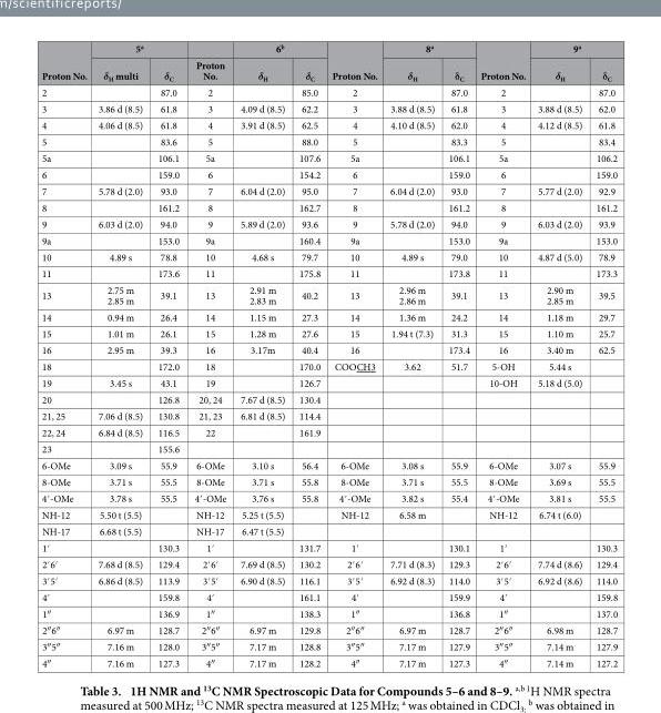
<table><thead><tr><td rowspan="2">Proton No.</td><td colspan="2">5<sup>a</sup></td><td rowspan="2">Proton No.</td><td colspan="2">6<sup>b</sup></td><td rowspan="2">Proton No.</td><td colspan="2">8<sup>a</sup></td><td rowspan="2">Proton No.</td><td colspan="2">9<sup>a</sup></td></tr><tr><td>δ<sub>H</sub> multi</td><td>δ<sub>C</sub></td><td>δ<sub>H</sub></td><td>δ<sub>C</sub></td><td>δ<sub>H</sub></td><td>δ<sub>C</sub></td><td>δ<sub>H</sub></td><td>δ<sub>C</sub></td></tr></thead><tbody><tr><td>2</td><td></td><td>87.0</td><td>2</td><td></td><td>85.0</td><td>2</td><td></td><td>87.0</td><td>2</td><td></td><td>87.0</td></tr><tr><td>3</td><td>3.86 d (8.5)</td><td>61.8</td><td>3</td><td>4.09 d (8.5)</td><td>62.2</td><td>3</td><td>3.88 d (8.5)</td><td>61.8</td><td>3</td><td>3.88 d (8.5)</td><td>62.0</td></tr><tr><td>4</td><td>4.06 d (8.5)</td><td>61.8</td><td>4</td><td>3.91 d (8.5)</td><td>62.5</td><td>4</td><td>4.10 d (8.5)</td><td>62.0</td><td>4</td><td>4.12 d (8.5)</td><td>61.8</td></tr><tr><td>5</td><td></td><td>83.6</td><td>5</td><td></td><td>88.0</td><td>5</td><td></td><td>83.3</td><td>5</td><td></td><td>83.4</td></tr><tr><td>5a</td><td></td><td>106.1</td><td>5a</td><td></td><td>107.6</td><td>5a</td><td></td><td>106.1</td><td>5a</td><td></td><td>106.2</td></tr><tr><td>6</td><td></td><td>159.0</td><td>6</td><td></td><td>154.2</td><td>6</td><td></td><td>159.0</td><td>6</td><td></td><td>159.0</td></tr><tr><td>7</td><td>5.78 d (2.0)</td><td>93.0</td><td>7</td><td>6.04 d (2.0)</td><td>95.0</td><td>7</td><td>6.04 d (2.0)</td><td>93.0</td><td>7</td><td>5.77 d (2.0)</td><td>92.9</td></tr><tr><td>8</td><td></td><td>161.2</td><td>8</td><td></td><td>162.7</td><td>8</td><td></td><td>161.2</td><td>8</td><td></td><td>161.2</td></tr><tr><td>9</td><td>6.03 d (2.0)</td><td>94.0</td><td>9</td><td>5.89 d (2.0)</td><td>93.6</td><td>9</td><td>5.78 d (2.0)</td><td>94.0</td><td>9</td><td>6.03 d (2.0)</td><td>93.9</td></tr><tr><td>9a</td><td></td><td>153.0</td><td>9a</td><td></td><td>160.4</td><td>9a</td><td></td><td>153.0</td><td>9a</td><td></td><td>153.0</td></tr><tr><td>10</td><td>4.89 s</td><td>78.8</td><td>10</td><td>4.68 s</td><td>79.7</td><td>10</td><td>4.89 s</td><td>79.0</td><td>10</td><td>4.87 d (5.0)</td><td>78.9</td></tr><tr><td>11</td><td></td><td>173.6</td><td>11</td><td></td><td>175.8</td><td>11</td><td></td><td>173.8</td><td>11</td><td></td><td>173.3</td></tr><tr><td>13</td><td>2.75 m 2.85 m</td><td>39.1</td><td>13</td><td>2.91 m 2.83 m</td><td>40.2</td><td>13</td><td>2.96 m 2.86 m</td><td>39.1</td><td>13</td><td>2.90 m 2.85 m</td><td>39.5</td></tr><tr><td>14</td><td>0.94 m</td><td>26.4</td><td>14</td><td>1.15 m</td><td>27.3</td><td>14</td><td>1.36 m</td><td>24.2</td><td>14</td><td>1.18 m</td><td>29.7</td></tr><tr><td>15</td><td>1.01 m</td><td>26.1</td><td>15</td><td>1.28 m</td><td>27.6</td><td>15</td><td>1.94 t (7.3)</td><td>31.3</td><td>15</td><td>1.10 m</td><td>25.7</td></tr><tr><td>16</td><td>2.95 m</td><td>39.3</td><td>16</td><td>3.17m</td><td>40.4</td><td>16</td><td></td><td>173.4</td><td>16</td><td>3.40 m</td><td>62.5</td></tr><tr><td>18</td><td></td><td>172.0</td><td>18</td><td></td><td>170.0</td><td>COOCH3</td><td>3.62</td><td>51.7</td><td>5-OH</td><td>5.44 s</td><td></td></tr><tr><td>19</td><td>3.45 s</td><td>43.1</td><td>19</td><td></td><td>126.7</td><td></td><td></td><td></td><td>10-OH</td><td>5.18 d (5.0)</td><td></td></tr><tr><td>20</td><td></td><td>126.8</td><td>20, 24</td><td>7.67 d (8.5)</td><td>130.4</td><td></td><td></td><td></td><td></td><td></td><td></td></tr><tr><td>21, 25</td><td>7.06 d (8.5)</td><td>130.8</td><td>21, 23</td><td>6.81 d (8.5)</td><td>114.4</td><td></td><td></td><td></td><td></td><td></td><td></td></tr><tr><td>22, 24</td><td>6.84 d (8.5)</td><td>116.5</td><td>22</td><td></td><td>161.9</td><td></td><td></td><td></td><td></td><td></td><td></td></tr><tr><td>23</td><td></td><td>155.6</td><td></td><td></td><td></td><td></td><td></td><td></td><td></td><td></td><td></td></tr><tr><td>6-OMe</td><td>3.09 s</td><td>55.9</td><td>6-OMe</td><td>3.10 s</td><td>56.4</td><td>6-OMe</td><td>3.08 s</td><td>55.9</td><td>6-OMe</td><td>3.07 s</td><td>55.9</td></tr><tr><td>8-OMe</td><td>3.71 s</td><td>55.5</td><td>8-OMe</td><td>3.71 s</td><td>55.8</td><td>8-OMe</td><td>3.71 s</td><td>55.5</td><td>8-OMe</td><td>3.69 s</td><td>55.5</td></tr><tr><td>4′ -OMe</td><td>3.78 s</td><td>55.5</td><td>4′ -OMe</td><td>3.76 s</td><td>55.8</td><td>4′ -OMe</td><td>3.82 s</td><td>55.4</td><td>4′ -OMe</td><td>3.81 s</td><td>55.5</td></tr><tr><td>NH-12</td><td>5.50 t (5.5)</td><td></td><td>NH-12</td><td>5.25 t (5.5)</td><td></td><td>NH-12</td><td>6.58 m</td><td></td><td>NH-12</td><td>6.74 t (6.0)</td><td></td></tr><tr><td>NH-17</td><td>6.68 t (5.5)</td><td></td><td>NH-17</td><td>6.47 t (5.5)</td><td></td><td></td><td></td><td></td><td></td><td></td><td></td></tr><tr><td>1′</td><td></td><td>130.3</td><td>1′</td><td></td><td>131.7</td><td>1′</td><td></td><td>130.1</td><td>1′</td><td></td><td>130.3</td></tr><tr><td>2′ 6′</td><td>7.68 d (8.5)</td><td>129.4</td><td>2′ 6′</td><td>7.69 d (8.5)</td><td>130.2</td><td>2′ 6′</td><td>7.71 d (8.3)</td><td>129.3</td><td>2′ 6′</td><td>7.74 d (8.6)</td><td>129.4</td></tr><tr><td>3′ 5′</td><td>6.86 d (8.5)</td><td>113.9</td><td>3′ 5′</td><td>6.90 d (8.5)</td><td>116.1</td><td>3′ 5′</td><td>6.92 d (8.3)</td><td>114.0</td><td>3′ 5′</td><td>6.92 d (8.6)</td><td>114.0</td></tr><tr><td>4′</td><td></td><td>159.8</td><td>4′</td><td></td><td>161.1</td><td>4′</td><td></td><td>159.9</td><td>4′</td><td></td><td>159.8</td></tr><tr><td>1″</td><td></td><td>136.9</td><td>1″</td><td></td><td>138.3</td><td>1″</td><td></td><td>136.8</td><td>1″</td><td></td><td>137.0</td></tr><tr><td>2″ 6″</td><td>6.97 m</td><td>128.7</td><td>2″ 6″</td><td>6.97 m</td><td>129.8</td><td>2″ 6″</td><td>6.97 m</td><td>128.7</td><td>2″ 6″</td><td>6.98 m</td><td>128.7</td></tr><tr><td>3″ 5″</td><td>7.16 m</td><td>128.0</td><td>3″ 5″</td><td>7.17 m</td><td>128.8</td><td>3″ 5″</td><td>7.17 m</td><td>127.9</td><td>3″ 5″</td><td>7.14 m</td><td>127.9</td></tr><tr><td>4″</td><td>7.16 m</td><td>127.3</td><td>4″</td><td>7.17 m</td><td>128.2</td><td>4″</td><td>7.17 m</td><td>127.3</td><td>4″</td><td>7.14 m</td><td>127.2</td></tr></tbody></table>